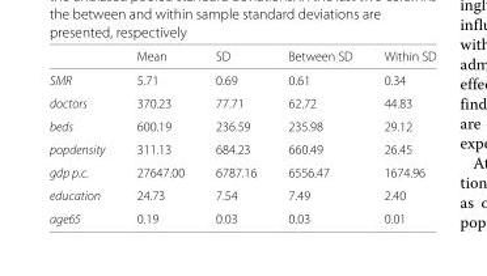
<table><thead><tr><td></td><td>Mean</td><td>SD</td><td>Between SD</td><td>Within SD</td></tr></thead><tbody><tr><td>SMR</td><td>5.71</td><td>0.69</td><td>0.61</td><td>0.34</td></tr><tr><td>doctors</td><td>370.23</td><td>77.71</td><td>62.72</td><td>44.83</td></tr><tr><td>beds</td><td>600.19</td><td>236.59</td><td>235.98</td><td>29.12</td></tr><tr><td>popdensity</td><td>311.13</td><td>684.23</td><td>660.49</td><td>26.45</td></tr><tr><td>gdp p.c.</td><td>27647.00</td><td>6787.16</td><td>6556.47</td><td>1674.96</td></tr><tr><td>education</td><td>24.73</td><td>7.54</td><td>7.49</td><td>2.40</td></tr><tr><td>age65</td><td>0.19</td><td>0.03</td><td>0.03</td><td>0.01</td></tr></tbody></table>